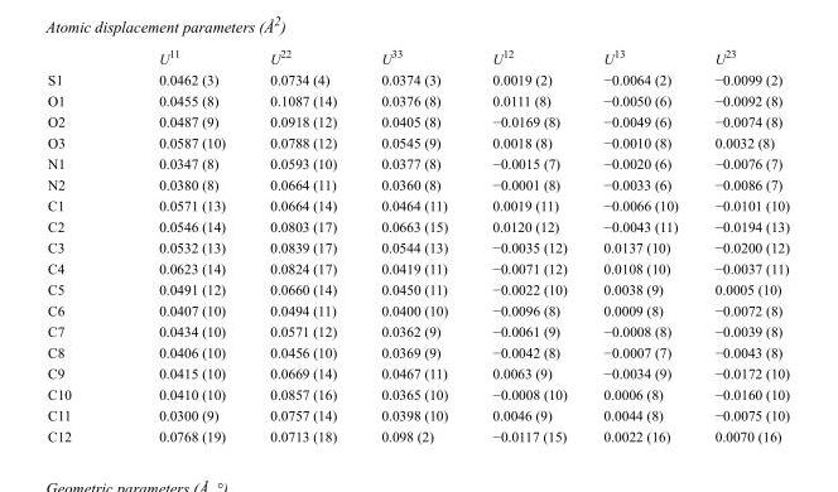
<table><thead><tr><td></td><td>U<sup>11</sup></td><td>U<sup>22</sup></td><td>U<sup>33</sup></td><td>U<sup>12</sup></td><td>U<sup>13</sup></td><td>U<sup>23</sup></td></tr></thead><tbody><tr><td>S1</td><td>0.0462 (3)</td><td>0.0734 (4)</td><td>0.0374 (3)</td><td>0.0019 (2)</td><td>−0.0064 (2)</td><td>−0.0099 (2)</td></tr><tr><td>O1</td><td>0.0455 (8)</td><td>0.1087 (14)</td><td>0.0376 (8)</td><td>0.0111 (8)</td><td>−0.0050 (6)</td><td>−0.0092 (8)</td></tr><tr><td>O2</td><td>0.0487 (9)</td><td>0.0918 (12)</td><td>0.0405 (8)</td><td>−0.0169 (8)</td><td>−0.0049 (6)</td><td>−0.0074 (8)</td></tr><tr><td>O3</td><td>0.0587 (10)</td><td>0.0788 (12)</td><td>0.0545 (9)</td><td>0.0018 (8)</td><td>−0.0010 (8)</td><td>0.0032 (8)</td></tr><tr><td>N1</td><td>0.0347 (8)</td><td>0.0593 (10)</td><td>0.0377 (8)</td><td>−0.0015 (7)</td><td>−0.0020 (6)</td><td>−0.0076 (7)</td></tr><tr><td>N2</td><td>0.0380 (8)</td><td>0.0664 (11)</td><td>0.0360 (8)</td><td>−0.0001 (8)</td><td>−0.0033 (6)</td><td>−0.0086 (7)</td></tr><tr><td>C1</td><td>0.0571 (13)</td><td>0.0664 (14)</td><td>0.0464 (11)</td><td>0.0019 (11)</td><td>−0.0066 (10)</td><td>−0.0101 (10)</td></tr><tr><td>C2</td><td>0.0546 (14)</td><td>0.0803 (17)</td><td>0.0663 (15)</td><td>0.0120 (12)</td><td>−0.0043 (11)</td><td>−0.0194 (13)</td></tr><tr><td>C3</td><td>0.0532 (13)</td><td>0.0839 (17)</td><td>0.0544 (13)</td><td>−0.0035 (12)</td><td>0.0137 (10)</td><td>−0.0200 (12)</td></tr><tr><td>C4</td><td>0.0623 (14)</td><td>0.0824 (17)</td><td>0.0419 (11)</td><td>−0.0071 (12)</td><td>0.0108 (10)</td><td>−0.0037 (11)</td></tr><tr><td>C5</td><td>0.0491 (12)</td><td>0.0660 (14)</td><td>0.0450 (11)</td><td>−0.0022 (10)</td><td>0.0038 (9)</td><td>0.0005 (10)</td></tr><tr><td>C6</td><td>0.0407 (10)</td><td>0.0494 (11)</td><td>0.0400 (10)</td><td>−0.0096 (8)</td><td>0.0009 (8)</td><td>−0.0072 (8)</td></tr><tr><td>C7</td><td>0.0434 (10)</td><td>0.0571 (12)</td><td>0.0362 (9)</td><td>−0.0061 (9)</td><td>−0.0008 (8)</td><td>−0.0039 (8)</td></tr><tr><td>C8</td><td>0.0406 (10)</td><td>0.0456 (10)</td><td>0.0369 (9)</td><td>−0.0042 (8)</td><td>−0.0007 (7)</td><td>−0.0043 (8)</td></tr><tr><td>C9</td><td>0.0415 (10)</td><td>0.0669 (14)</td><td>0.0467 (11)</td><td>0.0063 (9)</td><td>−0.0034 (9)</td><td>−0.0172 (10)</td></tr><tr><td>C10</td><td>0.0410 (10)</td><td>0.0857 (16)</td><td>0.0365 (10)</td><td>−0.0008 (10)</td><td>0.0006 (8)</td><td>−0.0160 (10)</td></tr><tr><td>C11</td><td>0.0300 (9)</td><td>0.0757 (14)</td><td>0.0398 (10)</td><td>0.0046 (9)</td><td>0.0044 (8)</td><td>−0.0075 (10)</td></tr><tr><td>C12</td><td>0.0768 (19)</td><td>0.0713 (18)</td><td>0.098 (2)</td><td>−0.0117 (15)</td><td>0.0022 (16)</td><td>0.0070 (16)</td></tr></tbody></table>